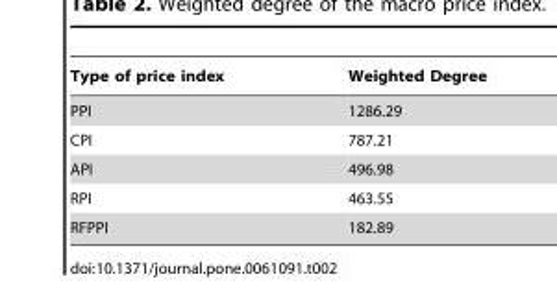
<table><thead><tr><td>Type of price index</td><td>Weighted Degree</td></tr></thead><tbody><tr><td>PPI</td><td>1286.29</td></tr><tr><td>CPI</td><td>787.21</td></tr><tr><td>API</td><td>496.98</td></tr><tr><td>RPI</td><td>463.55</td></tr><tr><td>RFPPI</td><td>182.89</td></tr></tbody></table>